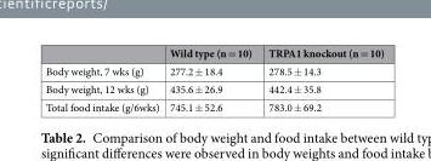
<table><thead><tr><td></td><td>Wild type (n = 10)</td><td>TRPA1 knockout (n = 10)</td></tr></thead><tbody><tr><td>Body weight, 7 wks (g)</td><td>277.2 ± 18.4</td><td>278.5 ± 14.3</td></tr><tr><td>Body weight, 12 wks (g)</td><td>435.6 ± 26.9</td><td>442.4 ± 35.8</td></tr><tr><td>Total food intake (g/6wks)</td><td>745.1 ± 52.6</td><td>783.0 ± 69.2</td></tr></tbody></table>